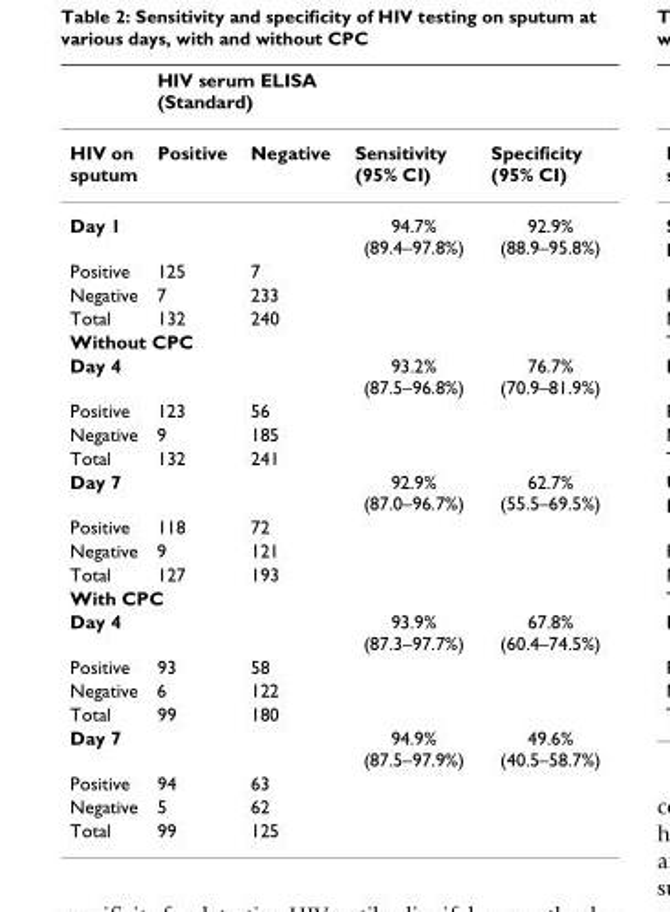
<table><thead><tr><td rowspan="2">HIV on sputum</td><td colspan="2">HIV serum ELISA (Standard)</td><td rowspan="2">Sensitivity (95% CI)</td><td rowspan="2">Specificity (95% CI)</td></tr><tr><td>Positive</td><td>Negative</td></tr></thead><tbody><tr><td>Day 1</td><td></td><td></td><td>94.7% (89.4–97.8%)</td><td>92.9% (88.9–95.8%)</td></tr><tr><td>Positive</td><td>125</td><td>7</td><td></td><td></td></tr><tr><td>Negative</td><td>7</td><td>233</td><td></td><td></td></tr><tr><td>Total</td><td>132</td><td>240</td><td></td><td></td></tr><tr><td colspan="5">Without CPC</td></tr><tr><td>Day 4</td><td></td><td></td><td>93.2% (87.5–96.8%)</td><td>76.7% (70.9–81.9%)</td></tr><tr><td>Positive</td><td>123</td><td>56</td><td></td><td></td></tr><tr><td>Negative</td><td>9</td><td>185</td><td></td><td></td></tr><tr><td>Total</td><td>132</td><td>241</td><td></td><td></td></tr><tr><td>Day 7</td><td></td><td></td><td>92.9% (87.0–96.7%)</td><td>62.7% (55.5–69.5%)</td></tr><tr><td>Positive</td><td>118</td><td>72</td><td></td><td></td></tr><tr><td>Negative</td><td>9</td><td>121</td><td></td><td></td></tr><tr><td>Total</td><td>127</td><td>193</td><td></td><td></td></tr><tr><td colspan="5">With CPC</td></tr><tr><td>Day 4</td><td></td><td></td><td>93.9% (87.3–97.7%)</td><td>67.8% (60.4–74.5%)</td></tr><tr><td>Positive</td><td>93</td><td>58</td><td></td><td></td></tr><tr><td>Negative</td><td>6</td><td>122</td><td></td><td></td></tr><tr><td>Total</td><td>99</td><td>180</td><td></td><td></td></tr><tr><td>Day 7</td><td></td><td></td><td>94.9% (87.5–97.9%)</td><td>49.6% (40.5–58.7%)</td></tr><tr><td>Positive</td><td>94</td><td>63</td><td></td><td></td></tr><tr><td>Negative</td><td>5</td><td>62</td><td></td><td></td></tr><tr><td>Total</td><td>99</td><td>125</td><td></td><td></td></tr></tbody></table>